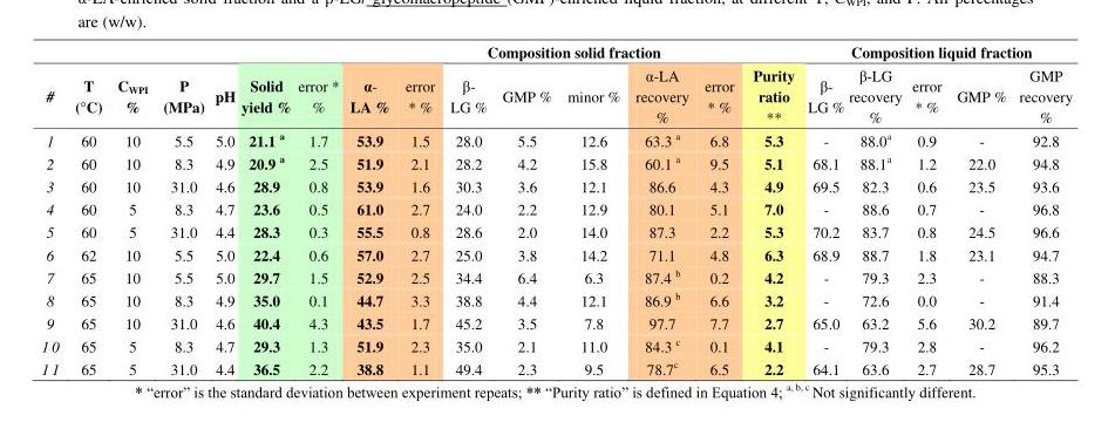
<table><thead><tr><td rowspan="2">#</td><td rowspan="2">T (°C)</td><td rowspan="2">C<sub>WPI</sub> %</td><td rowspan="2">P (MPa)</td><td rowspan="2">pH</td><td rowspan="2">Solid yield %</td><td rowspan="2">error * %</td><td colspan="8">Composition solid fraction</td><td colspan="5">Composition liquid fraction</td></tr><tr><td>α- LA %</td><td>error * %</td><td>β- LG %</td><td>GMP %</td><td>minor %</td><td>α-LA recovery %</td><td>error * %</td><td>Purity ratio **</td><td>β- LG %</td><td>β-LG recovery %</td><td>error * %</td><td>GMP %</td><td>GMP recovery %</td></tr></thead><tbody><tr><td>1</td><td>60</td><td>10</td><td>5.5</td><td>5.0</td><td>21.1 <sup>a</sup></td><td>1.7</td><td>53.9</td><td>1.5</td><td>28.0</td><td>5.5</td><td>12.6</td><td>63.3 a</td><td>6.8</td><td>5.3</td><td>-</td><td>88.0<sup>a</sup></td><td>0.9</td><td>-</td><td>92.8</td></tr><tr><td>2</td><td>60</td><td>10</td><td>8.3</td><td>4.9</td><td>20.9 <sup>a</sup></td><td>2.5</td><td>51.9</td><td>2.1</td><td>28.2</td><td>4.2</td><td>15.8</td><td>60.1 a</td><td>9.5</td><td>5.1</td><td>68.1</td><td>88.1<sup>a</sup></td><td>1.2</td><td>22.0</td><td>94.8</td></tr><tr><td>3</td><td>60</td><td>10</td><td>31.0</td><td>4.6</td><td>28.9</td><td>0.8</td><td>53.9</td><td>1.6</td><td>30.3</td><td>3.6</td><td>12.1</td><td>86.6</td><td>4.3</td><td>4.9</td><td>69.5</td><td>82.3</td><td>0.6</td><td>23.5</td><td>93.6</td></tr><tr><td>4</td><td>60</td><td>5</td><td>8.3</td><td>4.7</td><td>23.6</td><td>0.5</td><td>61.0</td><td>2.7</td><td>24.0</td><td>2.2</td><td>12.9</td><td>80.1</td><td>5.1</td><td>7.0</td><td>-</td><td>88.6</td><td>0.7</td><td>-</td><td>96.8</td></tr><tr><td>5</td><td>60</td><td>5</td><td>31.0</td><td>4.4</td><td>28.3</td><td>0.3</td><td>55.5</td><td>0.8</td><td>28.6</td><td>2.0</td><td>14.0</td><td>87.3</td><td>2.2</td><td>5.3</td><td>70.2</td><td>83.7</td><td>0.8</td><td>24.5</td><td>96.6</td></tr><tr><td>6</td><td>62</td><td>10</td><td>5.5</td><td>5.0</td><td>22.4</td><td>0.6</td><td>57.0</td><td>2.7</td><td>25.0</td><td>3.8</td><td>14.2</td><td>71.1</td><td>4.8</td><td>6.3</td><td>68.9</td><td>88.7</td><td>1.8</td><td>23.1</td><td>94.7</td></tr><tr><td>7</td><td>65</td><td>10</td><td>5.5</td><td>5.0</td><td>29.7</td><td>1.5</td><td>52.9</td><td>2.5</td><td>34.4</td><td>6.4</td><td>6.3</td><td>87.4 b</td><td>0.2</td><td>4.2</td><td>-</td><td>79.3</td><td>2.3</td><td>-</td><td>88.3</td></tr><tr><td>8</td><td>65</td><td>10</td><td>8.3</td><td>4.9</td><td>35.0</td><td>0.1</td><td>44.7</td><td>3.3</td><td>38.8</td><td>4.4</td><td>12.1</td><td>86.9 b</td><td>6.6</td><td>3.2</td><td>-</td><td>72.6</td><td>0.0</td><td>-</td><td>91.4</td></tr><tr><td>9</td><td>65</td><td>10</td><td>31.0</td><td>4.6</td><td>40.4</td><td>4.3</td><td>43.5</td><td>1.7</td><td>45.2</td><td>3.5</td><td>7.8</td><td>97.7</td><td>7.7</td><td>2.7</td><td>65.0</td><td>63.2</td><td>5.6</td><td>30.2</td><td>89.7</td></tr><tr><td>1 0</td><td>65</td><td>5</td><td>8.3</td><td>4.7</td><td>29.3</td><td>1.3</td><td>51.9</td><td>2.3</td><td>35.0</td><td>2.1</td><td>11.0</td><td>84.3 c</td><td>0.1</td><td>4.1</td><td>-</td><td>79.3</td><td>2.8</td><td>-</td><td>96.2</td></tr><tr><td>1 1</td><td>65</td><td>5</td><td>31.0</td><td>4.4</td><td>36.5</td><td>2.2</td><td>38.8</td><td>1.1</td><td>49.4</td><td>2.3</td><td>9.5</td><td>78.7<sup>c</sup></td><td>6.5</td><td>2.2</td><td>64.1</td><td>63.6</td><td>2.7</td><td>28.7</td><td>95.3</td></tr></tbody></table>